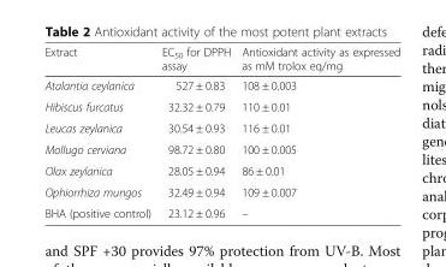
<table><thead><tr><td>Extract</td><td>EC<sub>50</sub> for DPPH assay</td><td>Antioxidant activity as expressed as mM trolox eq/mg</td></tr></thead><tbody><tr><td>Atalantia ceylanica</td><td>527 ± 0.83</td><td>108 ± 0.003</td></tr><tr><td>Hibiscus furcatus</td><td>32.32 ± 0.79</td><td>110 ± 0.01</td></tr><tr><td>Leucas zeylanica</td><td>30.54 ± 0.93</td><td>116 ± 0.01</td></tr><tr><td>Mollugo cerviana</td><td>98.72 ± 0.80</td><td>100 ± 0.005</td></tr><tr><td>Olax zeylanica</td><td>28.05 ± 0.94</td><td>86 ± 0.01</td></tr><tr><td>Ophiorrhiza mungos</td><td>32.49 ± 0.94</td><td>109 ± 0.007</td></tr><tr><td>BHA (positive control)</td><td>23.12 ± 0.96</td><td>–</td></tr></tbody></table>